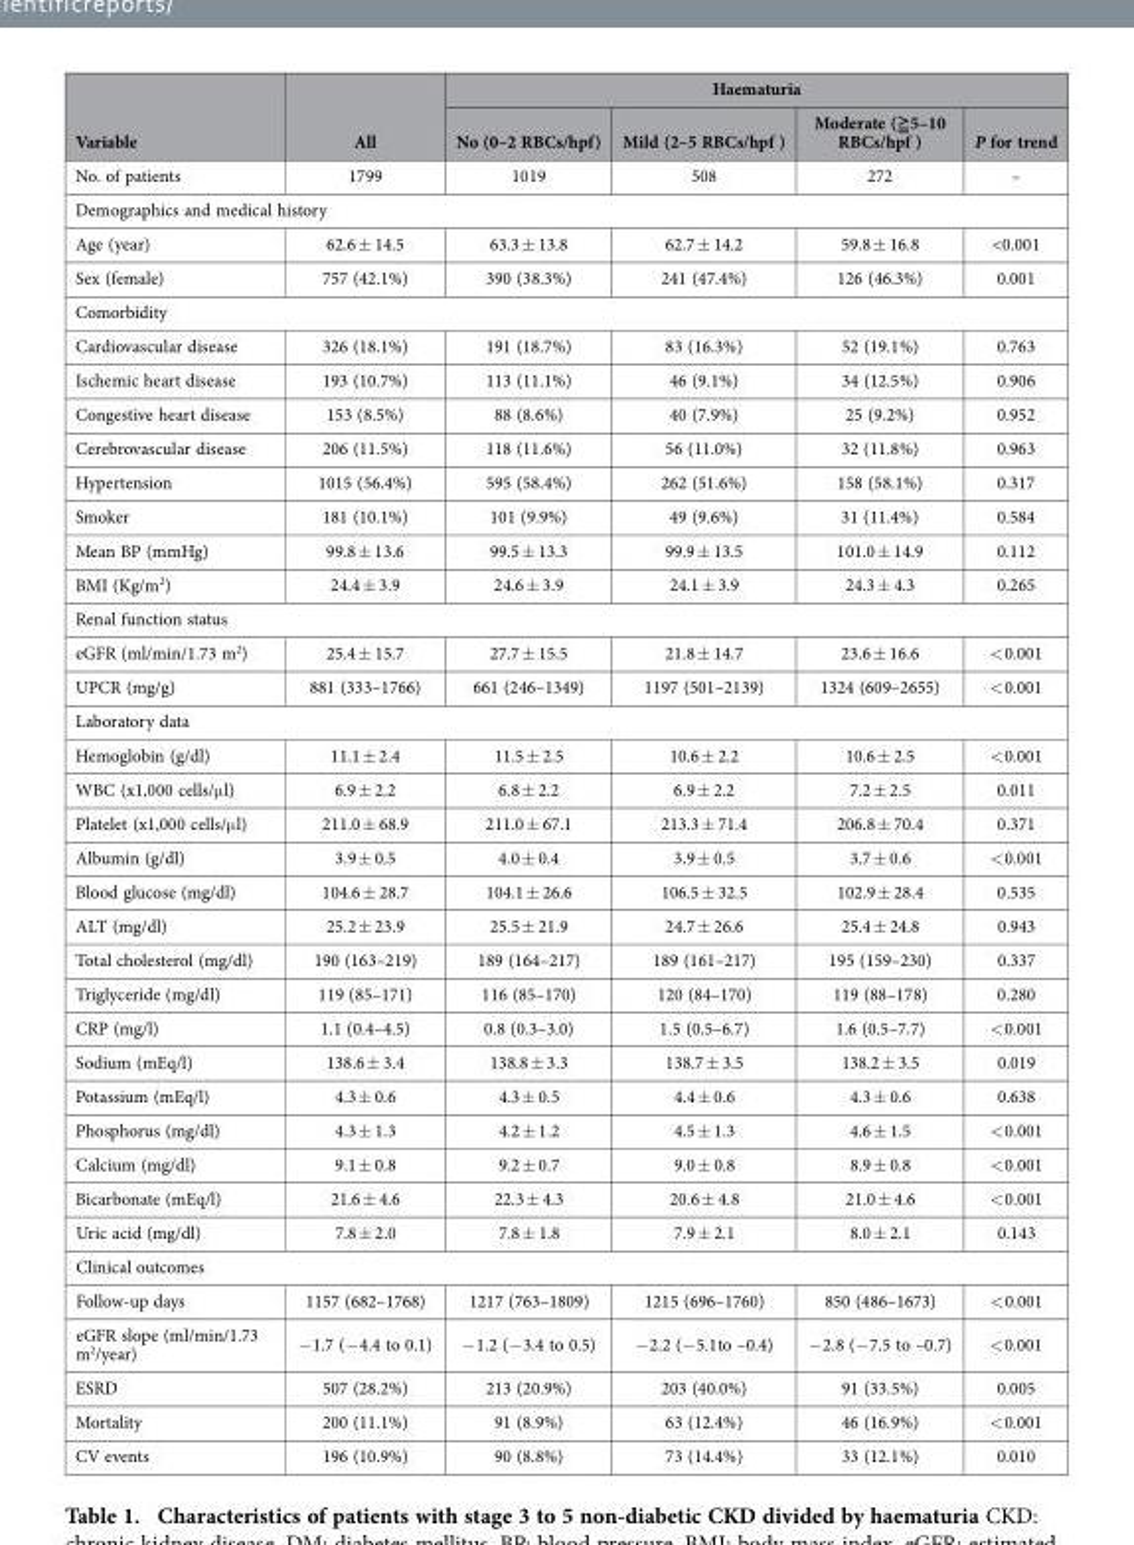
<table><thead><tr><td rowspan="2">Variable</td><td rowspan="2">All</td><td colspan="4">Haematuria</td></tr><tr><td>No (0–2 RBCs/hpf)</td><td>Mild (2–5 RBCs/hpf )</td><td>Moderate (≧5–10 RBCs/hpf )</td><td>P for trend</td></tr></thead><tbody><tr><td>No. of patients</td><td>1799</td><td>1019</td><td>508</td><td>272</td><td>–</td></tr><tr><td colspan="6">Demographics and medical history</td></tr><tr><td>Age (year)</td><td>62.6 ± 14.5</td><td>63.3 ± 13.8</td><td>62.7 ± 14.2</td><td>59.8 ± 16.8</td><td>&lt;0.001</td></tr><tr><td>Sex (female)</td><td>757 (42.1%)</td><td>390 (38.3%)</td><td>241 (47.4%)</td><td>126 (46.3%)</td><td>0.001</td></tr><tr><td colspan="6">Comorbidity</td></tr><tr><td>Cardiovascular disease</td><td>326 (18.1%)</td><td>191 (18.7%)</td><td>83 (16.3%)</td><td>52 (19.1%)</td><td>0.763</td></tr><tr><td>Ischemic heart disease</td><td>193 (10.7%)</td><td>113 (11.1%)</td><td>46 (9.1%)</td><td>34 (12.5%)</td><td>0.906</td></tr><tr><td>Congestive heart disease</td><td>153 (8.5%)</td><td>88 (8.6%)</td><td>40 (7.9%)</td><td>25 (9.2%)</td><td>0.952</td></tr><tr><td>Cerebrovascular disease</td><td>206 (11.5%)</td><td>118 (11.6%)</td><td>56 (11.0%)</td><td>32 (11.8%)</td><td>0.963</td></tr><tr><td>Hypertension</td><td>1015 (56.4%)</td><td>595 (58.4%)</td><td>262 (51.6%)</td><td>158 (58.1%)</td><td>0.317</td></tr><tr><td>Smoker</td><td>181 (10.1%)</td><td>101 (9.9%)</td><td>49 (9.6%)</td><td>31 (11.4%)</td><td>0.584</td></tr><tr><td>Mean BP (mmHg)</td><td>99.8 ± 13.6</td><td>99.5 ± 13.3</td><td>99.9 ± 13.5</td><td>101.0 ± 14.9</td><td>0.112</td></tr><tr><td>BMI (Kg/m<sup>2</sup>)</td><td>24.4 ± 3.9</td><td>24.6 ± 3.9</td><td>24.1 ± 3.9</td><td>24.3 ± 4.3</td><td>0.265</td></tr><tr><td colspan="6">Renal function status</td></tr><tr><td>eGFR (ml/min/1.73 m<sup>2</sup>)</td><td>25.4 ± 15.7</td><td>27.7 ± 15.5</td><td>21.8 ± 14.7</td><td>23.6 ± 16.6</td><td>&lt; 0.001</td></tr><tr><td>UPCR (mg/g)</td><td>881 (333–1766)</td><td>661 (246–1349)</td><td>1197 (501–2139)</td><td>1324 (609–2655)</td><td>&lt; 0.001</td></tr><tr><td colspan="6">Laboratory data</td></tr><tr><td>Hemoglobin (g/dl)</td><td>11.1 ± 2.4</td><td>11.5 ± 2.5</td><td>10.6 ± 2.2</td><td>10.6 ± 2.5</td><td>&lt; 0.001</td></tr><tr><td>WBC (x1,000 cells/μ l)</td><td>6.9 ± 2.2</td><td>6.8 ± 2.2</td><td>6.9 ± 2.2</td><td>7.2 ± 2.5</td><td>0.011</td></tr><tr><td>Platelet (x1,000 cells/μ l)</td><td>211.0 ± 68.9</td><td>211.0 ± 67.1</td><td>213.3 ± 71.4</td><td>206.8 ± 70.4</td><td>0.371</td></tr><tr><td>Albumin (g/dl)</td><td>3.9 ± 0.5</td><td>4.0 ± 0.4</td><td>3.9 ± 0.5</td><td>3.7 ± 0.6</td><td>&lt; 0.001</td></tr><tr><td>Blood glucose (mg/dl)</td><td>104.6 ± 28.7</td><td>104.1 ± 26.6</td><td>106.5 ± 32.5</td><td>102.9 ± 28.4</td><td>0.535</td></tr><tr><td>ALT (mg/dl)</td><td>25.2 ± 23.9</td><td>25.5 ± 21.9</td><td>24.7 ± 26.6</td><td>25.4 ± 24.8</td><td>0.943</td></tr><tr><td>Total cholesterol (mg/dl)</td><td>190 (163–219)</td><td>189 (164–217)</td><td>189 (161–217)</td><td>195 (159–230)</td><td>0.337</td></tr><tr><td>Triglyceride (mg/dl)</td><td>119 (85–171)</td><td>116 (85–170)</td><td>120 (84–170)</td><td>119 (88–178)</td><td>0.280</td></tr><tr><td>CRP (mg/l)</td><td>1.1 (0.4–4.5)</td><td>0.8 (0.3–3.0)</td><td>1.5 (0.5–6.7)</td><td>1.6 (0.5–7.7)</td><td>&lt; 0.001</td></tr><tr><td>Sodium (mEq/l)</td><td>138.6 ± 3.4</td><td>138.8 ± 3.3</td><td>138.7 ± 3.5</td><td>138.2 ± 3.5</td><td>0.019</td></tr><tr><td>Potassium (mEq/l)</td><td>4.3 ± 0.6</td><td>4.3 ± 0.5</td><td>4.4 ± 0.6</td><td>4.3 ± 0.6</td><td>0.638</td></tr><tr><td>Phosphorus (mg/dl)</td><td>4.3 ± 1.3</td><td>4.2 ± 1.2</td><td>4.5 ± 1.3</td><td>4.6 ± 1.5</td><td>&lt; 0.001</td></tr><tr><td>Calcium (mg/dl)</td><td>9.1 ± 0.8</td><td>9.2 ± 0.7</td><td>9.0 ± 0.8</td><td>8.9 ± 0.8</td><td>&lt; 0.001</td></tr><tr><td>Bicarbonate (mEq/l)</td><td>21.6 ± 4.6</td><td>22.3 ± 4.3</td><td>20.6 ± 4.8</td><td>21.0 ± 4.6</td><td>&lt; 0.001</td></tr><tr><td>Uric acid (mg/dl)</td><td>7.8 ± 2.0</td><td>7.8 ± 1.8</td><td>7.9 ± 2.1</td><td>8.0 ± 2.1</td><td>0.143</td></tr><tr><td colspan="6">Clinical outcomes</td></tr><tr><td>Follow-up days</td><td>1157 (682–1768)</td><td>1217 (763–1809)</td><td>1215 (696–1760)</td><td>850 (486–1673)</td><td>&lt; 0.001</td></tr><tr><td>eGFR slope (ml/min/1.73 m<sup>2</sup>/year)</td><td>− 1.7 (− 4.4 to 0.1)</td><td>− 1.2 (− 3.4 to 0.5)</td><td>− 2.2 (− 5.1to –0.4)</td><td>− 2.8 (− 7.5 to –0.7)</td><td>&lt; 0.001</td></tr><tr><td>ESRD</td><td>507 (28.2%)</td><td>213 (20.9%)</td><td>203 (40.0%)</td><td>91 (33.5%)</td><td>0.005</td></tr><tr><td>Mortality</td><td>200 (11.1%)</td><td>91 (8.9%)</td><td>63 (12.4%)</td><td>46 (16.9%)</td><td>&lt; 0.001</td></tr><tr><td>CV events</td><td>196 (10.9%)</td><td>90 (8.8%)</td><td>73 (14.4%)</td><td>33 (12.1%)</td><td>0.010</td></tr></tbody></table>